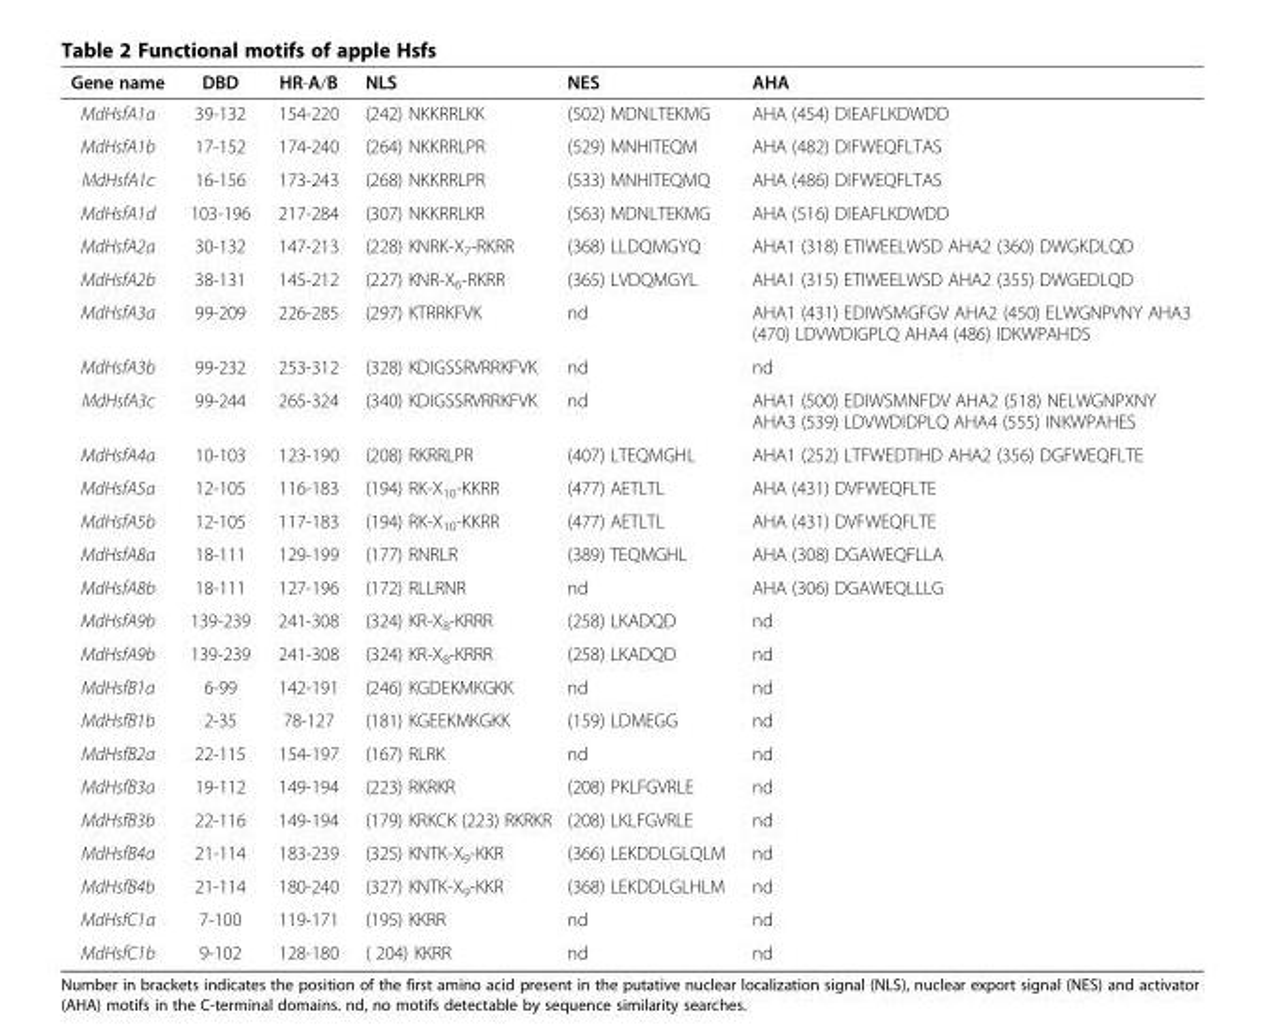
<table><thead><tr><td>Gene name</td><td>DBD</td><td>HR-A/B</td><td>NLS</td><td>NES</td><td>AHA</td></tr></thead><tbody><tr><td>MdHsfA1a</td><td>39-132</td><td>154-220</td><td>(242) NKKRRLKK</td><td>(502) MDNLTEKMG</td><td>AHA (454) DIEAFLKDWDD</td></tr><tr><td>MdHsfA1b</td><td>17-152</td><td>174-240</td><td>(264) NKKRRLPR</td><td>(529) MNHITEQM</td><td>AHA (482) DIFWEQFLTAS</td></tr><tr><td>MdHsfA1c</td><td>16-156</td><td>173-243</td><td>(268) NKKRRLPR</td><td>(533) MNHITEQMQ</td><td>AHA (486) DIFWEQFLTAS</td></tr><tr><td>MdHsfA1d</td><td>103-196</td><td>217-284</td><td>(307) NKKRRLKR</td><td>(563) MDNLTEKMG</td><td>AHA (516) DIEAFLKDWDD</td></tr><tr><td>MdHsfA2a</td><td>30-132</td><td>147-213</td><td>(228) KNRK-X<sub>7</sub>-RKRR</td><td>(368) LLDQMGYQ</td><td>AHA1 (318) ETIWEELWSD AHA2 (360) DWGKDLQD</td></tr><tr><td>MdHsfA2b</td><td>38-131</td><td>145-212</td><td>(227) KNR-X<sub>6</sub>-RKRR</td><td>(365) LVDQMGYL</td><td>AHA1 (315) ETIWEELWSD AHA2 (355) DWGEDLQD</td></tr><tr><td>MdHsfA3a</td><td>99-209</td><td>226-285</td><td>(297) KTRRKFVK</td><td>nd</td><td>AHA1 (431) EDIWSMGFGV AHA2 (450) ELWGNPVNY AHA3 (470) LDVWDIGPLQ AHA4 (486) IDKWPAHDS</td></tr><tr><td>MdHsfA3b</td><td>99-232</td><td>253-312</td><td>(328) KDIGSSRVRRKFVK</td><td>nd</td><td>nd</td></tr><tr><td>MdHsfA3c</td><td>99-244</td><td>265-324</td><td>(340) KDIGSSRVRRKFVK</td><td>nd</td><td>AHA1 (500) EDIWSMNFDV AHA2 (518) NELWGNPXNY AHA3 (539) LDVWDIDPLQ AHA4 (555) INKWPAHES</td></tr><tr><td>MdHsfA4a</td><td>10-103</td><td>123-190</td><td>(208) RKRRLPR</td><td>(407) LTEQMGHL</td><td>AHA1 (252) LTFWEDTIHD AHA2 (356) DGFWEQFLTE</td></tr><tr><td>MdHsfA5a</td><td>12-105</td><td>116-183</td><td>(194) RK-X<sub>10</sub>-KKRR</td><td>(477) AETLTL</td><td>AHA (431) DVFWEQFLTE</td></tr><tr><td>MdHsfA5b</td><td>12-105</td><td>117-183</td><td>(194) RK-X<sub>10</sub>-KKRR</td><td>(477) AETLTL</td><td>AHA (431) DVFWEQFLTE</td></tr><tr><td>MdHsfA8a</td><td>18-111</td><td>129-199</td><td>(177) RNRLR</td><td>(389) TEQMGHL</td><td>AHA (308) DGAWEQFLLA</td></tr><tr><td>MdHsfA8b</td><td>18-111</td><td>127-196</td><td>(172) RLLRNR</td><td>nd</td><td>AHA (306) DGAWEQLLLG</td></tr><tr><td>MdHsfA9b</td><td>139-239</td><td>241-308</td><td>(324) KR-X<sub>8</sub>-KRRR</td><td>(258) LKADQD</td><td>nd</td></tr><tr><td>MdHsfA9b</td><td>139-239</td><td>241-308</td><td>(324) KR-X<sub>8</sub>-KRRR</td><td>(258) LKADQD</td><td>nd</td></tr><tr><td>MdHsfB1a</td><td>6-99</td><td>142-191</td><td>(246) KGDEKMKGKK</td><td>nd</td><td>nd</td></tr><tr><td>MdHsfB1b</td><td>2-35</td><td>78-127</td><td>(181) KGEEKMKGKK</td><td>(159) LDMEGG</td><td>nd</td></tr><tr><td>MdHsfB2a</td><td>22-115</td><td>154-197</td><td>(167) RLRK</td><td>nd</td><td>nd</td></tr><tr><td>MdHsfB3a</td><td>19-112</td><td>149-194</td><td>(223) RKRKR</td><td>(208) PKLFGVRLE</td><td>nd</td></tr><tr><td>MdHsfB3b</td><td>22-116</td><td>149-194</td><td>(179) KRKCK (223) RKRKR</td><td>(208) LKLFGVRLE</td><td>nd</td></tr><tr><td>MdHsfB4a</td><td>21-114</td><td>183-239</td><td>(325) KNTK-X<sub>9</sub>-KKR</td><td>(366) LEKDDLGLQLM</td><td>nd</td></tr><tr><td>MdHsfB4b</td><td>21-114</td><td>180-240</td><td>(327) KNTK-X<sub>9</sub>-KKR</td><td>(368) LEKDDLGLHLM</td><td>nd</td></tr><tr><td>MdHsfC1a</td><td>7-100</td><td>119-171</td><td>(195) KKRR</td><td>nd</td><td>nd</td></tr><tr><td>MdHsfC1b</td><td>9-102</td><td>128-180</td><td>( 204) KKRR</td><td>nd</td><td>nd</td></tr></tbody></table>